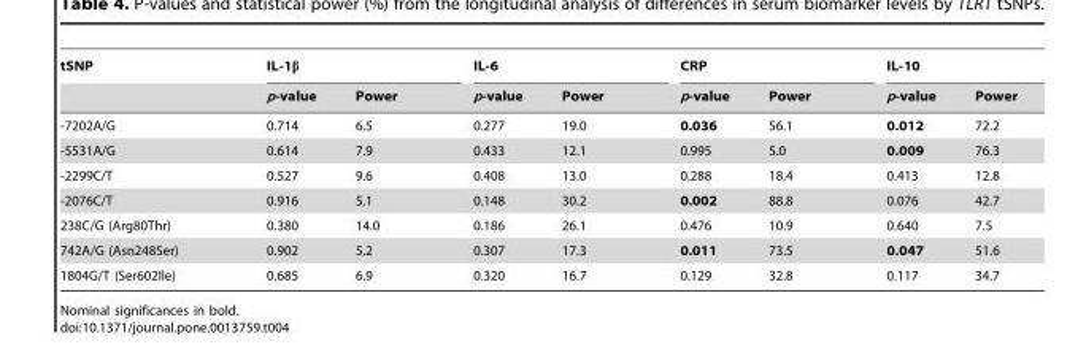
<table><thead><tr><td rowspan="2">tSNP</td><td colspan="2">IL-1β</td><td colspan="2">IL-6</td><td colspan="2">CRP</td><td colspan="2">IL-10</td></tr><tr><td>p-value</td><td>Power</td><td>p-value</td><td>Power</td><td>p-value</td><td>Power</td><td>p-value</td><td>Power</td></tr></thead><tbody><tr><td>-7202A/G</td><td>0.714</td><td>6.5</td><td>0.277</td><td>19.0</td><td>0.036</td><td>56.1</td><td>0.012</td><td>72.2</td></tr><tr><td>-5531A/G</td><td>0.614</td><td>7.9</td><td>0.433</td><td>12.1</td><td>0.995</td><td>5.0</td><td>0.009</td><td>76.3</td></tr><tr><td>-2299C/T</td><td>0.527</td><td>9.6</td><td>0.408</td><td>13.0</td><td>0.288</td><td>18.4</td><td>0.413</td><td>12.8</td></tr><tr><td>-2076C/T</td><td>0.916</td><td>5.1</td><td>0.148</td><td>30.2</td><td>0.002</td><td>88.8</td><td>0.076</td><td>42.7</td></tr><tr><td>238C/G (Arg80Thr)</td><td>0.380</td><td>14.0</td><td>0.186</td><td>26.1</td><td>0.476</td><td>10.9</td><td>0.640</td><td>7.5</td></tr><tr><td>742A/G (Asn248Ser)</td><td>0.902</td><td>5.2</td><td>0.307</td><td>17.3</td><td>0.011</td><td>73.5</td><td>0.047</td><td>51.6</td></tr><tr><td>1804G/T (Ser602Ile)</td><td>0.685</td><td>6.9</td><td>0.320</td><td>16.7</td><td>0.129</td><td>32.8</td><td>0.117</td><td>34.7</td></tr></tbody></table>